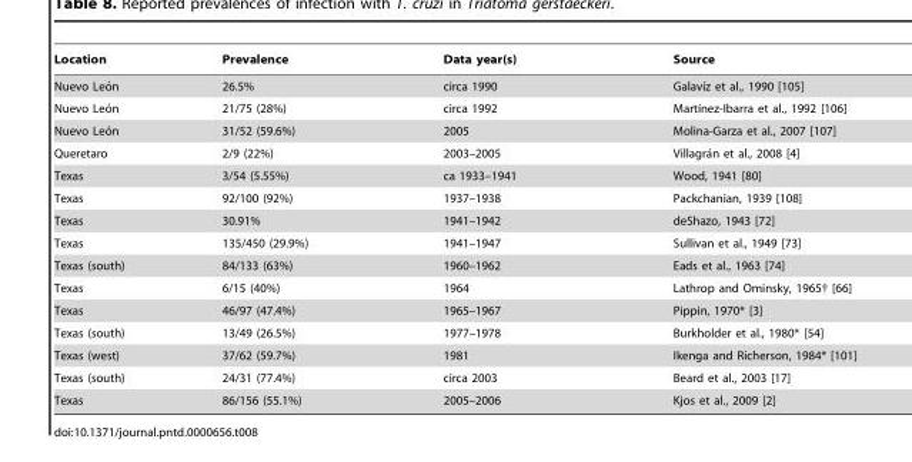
<table><thead><tr><td>Location</td><td>Prevalence</td><td>Data year(s)</td><td>Source</td></tr></thead><tbody><tr><td>Nuevo Leo´n</td><td>26.5%</td><td>circa 1990</td><td>Galavı´z et al., 1990 [105]</td></tr><tr><td>Nuevo Leo´n</td><td>21/75 (28%)</td><td>circa 1992</td><td>Martı´nez-Ibarra et al., 1992 [106]</td></tr><tr><td>Nuevo Leo´n</td><td>31/52 (59.6%)</td><td>2005</td><td>Molina-Garza et al., 2007 [107]</td></tr><tr><td>Queretaro</td><td>2/9 (22%)</td><td>2003–2005</td><td>Villagra´n et al., 2008 [4]</td></tr><tr><td>Texas</td><td>3/54 (5.55%)</td><td>ca 1933–1941</td><td>Wood, 1941 [80]</td></tr><tr><td>Texas</td><td>92/100 (92%)</td><td>1937–1938</td><td>Packchanian, 1939 [108]</td></tr><tr><td>Texas</td><td>30.91%</td><td>1941–1942</td><td>deShazo, 1943 [72]</td></tr><tr><td>Texas</td><td>135/450 (29.9%)</td><td>1941–1947</td><td>Sullivan et al., 1949 [73]</td></tr><tr><td>Texas (south)</td><td>84/133 (63%)</td><td>1960–1962</td><td>Eads et al., 1963 [74]</td></tr><tr><td>Texas</td><td>6/15 (40%)</td><td>1964</td><td>Lathrop and Ominsky, 1965{ [66]</td></tr><tr><td>Texas</td><td>46/97 (47.4%)</td><td>1965–1967</td><td>Pippin, 1970* [3]</td></tr><tr><td>Texas (south)</td><td>13/49 (26.5%)</td><td>1977–1978</td><td>Burkholder et al., 1980* [54]</td></tr><tr><td>Texas (west)</td><td>37/62 (59.7%)</td><td>1981</td><td>Ikenga and Richerson, 1984* [101]</td></tr><tr><td>Texas (south)</td><td>24/31 (77.4%)</td><td>circa 2003</td><td>Beard et al., 2003 [17]</td></tr><tr><td>Texas</td><td>86/156 (55.1%)</td><td>2005–2006</td><td>Kjos et al., 2009 [2]</td></tr></tbody></table>